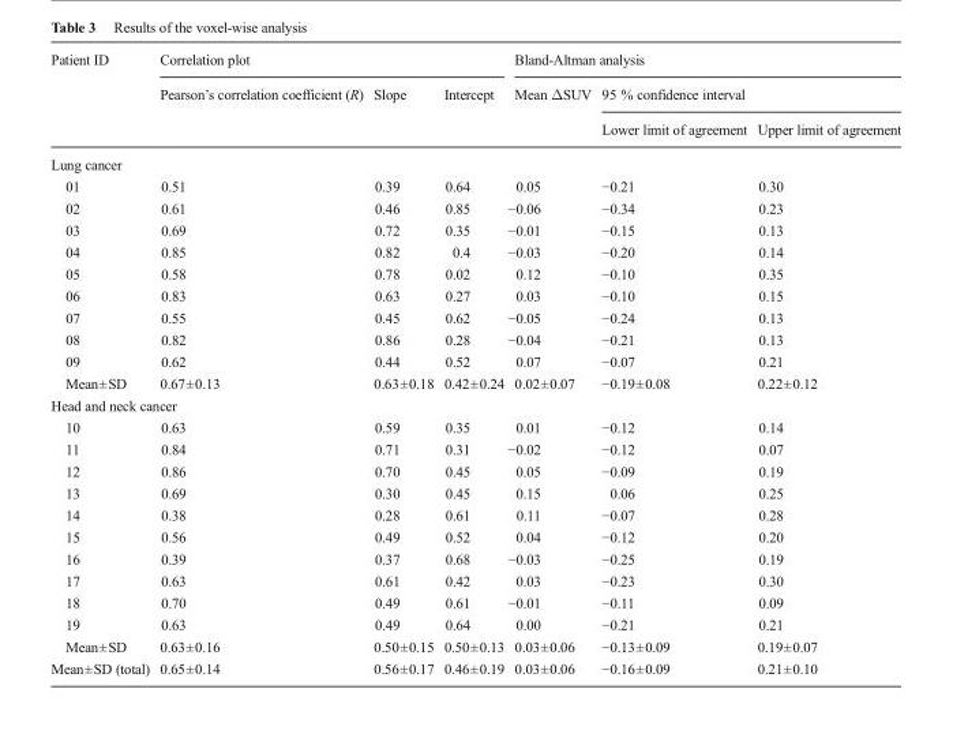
<table><thead><tr><td rowspan="3">Patient ID</td><td colspan="3">Correlation plot</td><td colspan="3">Bland-Altman analysis</td></tr><tr><td rowspan="2">Pearson’s correlation coefficient (R)</td><td rowspan="2">Slope</td><td rowspan="2">Intercept</td><td rowspan="2">Mean ΔSUV</td><td colspan="2">95 % confidence interval</td></tr><tr><td>Lower limit of agreement</td><td>Upper limit of agreement</td></tr></thead><tbody><tr><td colspan="7">Lung cancer</td></tr><tr><td>01</td><td>0.51</td><td>0.39</td><td>0.64</td><td>0.05</td><td>−0.21</td><td>0.30</td></tr><tr><td>02</td><td>0.61</td><td>0.46</td><td>0.85</td><td>−0.06</td><td>−0.34</td><td>0.23</td></tr><tr><td>03</td><td>0.69</td><td>0.72</td><td>0.35</td><td>−0.01</td><td>−0.15</td><td>0.13</td></tr><tr><td>04</td><td>0.85</td><td>0.82</td><td>0.4</td><td>−0.03</td><td>−0.20</td><td>0.14</td></tr><tr><td>05</td><td>0.58</td><td>0.78</td><td>0.02</td><td>0.12</td><td>−0.10</td><td>0.35</td></tr><tr><td>06</td><td>0.83</td><td>0.63</td><td>0.27</td><td>0.03</td><td>−0.10</td><td>0.15</td></tr><tr><td>07</td><td>0.55</td><td>0.45</td><td>0.62</td><td>−0.05</td><td>−0.24</td><td>0.13</td></tr><tr><td>08</td><td>0.82</td><td>0.86</td><td>0.28</td><td>−0.04</td><td>−0.21</td><td>0.13</td></tr><tr><td>09</td><td>0.62</td><td>0.44</td><td>0.52</td><td>0.07</td><td>−0.07</td><td>0.21</td></tr><tr><td>Mean±SD</td><td>0.67±0.13</td><td>0.63±0.18</td><td>0.42±0.24</td><td>0.02±0.07</td><td>−0.19±0.08</td><td>0.22±0.12</td></tr><tr><td colspan="7">Head and neck cancer</td></tr><tr><td>10</td><td>0.63</td><td>0.59</td><td>0.35</td><td>0.01</td><td>−0.12</td><td>0.14</td></tr><tr><td>11</td><td>0.84</td><td>0.71</td><td>0.31</td><td>−0.02</td><td>−0.12</td><td>0.07</td></tr><tr><td>12</td><td>0.86</td><td>0.70</td><td>0.45</td><td>0.05</td><td>−0.09</td><td>0.19</td></tr><tr><td>13</td><td>0.69</td><td>0.30</td><td>0.45</td><td>0.15</td><td>0.06</td><td>0.25</td></tr><tr><td>14</td><td>0.38</td><td>0.28</td><td>0.61</td><td>0.11</td><td>−0.07</td><td>0.28</td></tr><tr><td>15</td><td>0.56</td><td>0.49</td><td>0.52</td><td>0.04</td><td>−0.12</td><td>0.20</td></tr><tr><td>16</td><td>0.39</td><td>0.37</td><td>0.68</td><td>−0.03</td><td>−0.25</td><td>0.19</td></tr><tr><td>17</td><td>0.63</td><td>0.61</td><td>0.42</td><td>0.03</td><td>−0.23</td><td>0.30</td></tr><tr><td>18</td><td>0.70</td><td>0.49</td><td>0.61</td><td>−0.01</td><td>−0.11</td><td>0.09</td></tr><tr><td>19</td><td>0.63</td><td>0.49</td><td>0.64</td><td>0.00</td><td>−0.21</td><td>0.21</td></tr><tr><td>Mean±SD</td><td>0.63±0.16</td><td>0.50±0.15</td><td>0.50±0.13</td><td>0.03±0.06</td><td>−0.13±0.09</td><td>0.19±0.07</td></tr><tr><td>Mean±SD (total)</td><td>0.65±0.14</td><td>0.56±0.17</td><td>0.46±0.19</td><td>0.03±0.06</td><td>−0.16±0.09</td><td>0.21±0.10</td></tr></tbody></table>